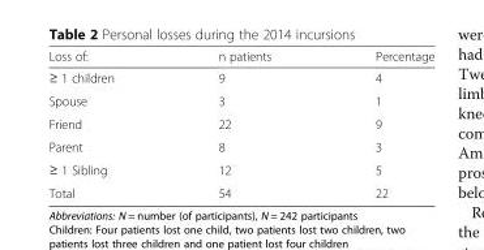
<table><thead><tr><td>Loss of:</td><td>n patients</td><td>Percentage</td></tr></thead><tbody><tr><td>≥ 1 children</td><td>9</td><td>4</td></tr><tr><td>Spouse</td><td>3</td><td>1</td></tr><tr><td>Friend</td><td>22</td><td>9</td></tr><tr><td>Parent</td><td>8</td><td>3</td></tr><tr><td>≥ 1 Sibling</td><td>12</td><td>5</td></tr><tr><td>Total</td><td>54</td><td>22</td></tr></tbody></table>